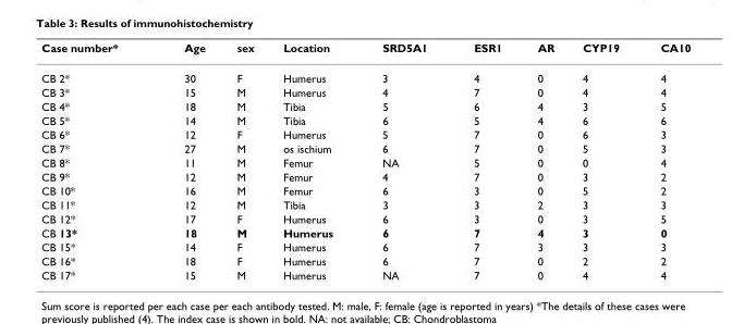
<table><thead><tr><td>Case number*</td><td>Age</td><td>sex</td><td>Location</td><td>SRD5A1</td><td>ESR1</td><td>AR</td><td>CYP19</td><td>CA10</td></tr></thead><tbody><tr><td>CB 2*</td><td>30</td><td>F</td><td>Humerus</td><td>3</td><td>4</td><td>0</td><td>4</td><td>4</td></tr><tr><td>CB 3*</td><td>15</td><td>M</td><td>Humerus</td><td>4</td><td>7</td><td>0</td><td>4</td><td>4</td></tr><tr><td>CB 4*</td><td>18</td><td>M</td><td>Tibia</td><td>5</td><td>6</td><td>4</td><td>3</td><td>5</td></tr><tr><td>CB 5*</td><td>14</td><td>M</td><td>Tibia</td><td>6</td><td>5</td><td>4</td><td>6</td><td>6</td></tr><tr><td>CB 6*</td><td>12</td><td>F</td><td>Humerus</td><td>5</td><td>7</td><td>0</td><td>6</td><td>3</td></tr><tr><td>CB 7*</td><td>27</td><td>M</td><td>os ischium</td><td>6</td><td>7</td><td>0</td><td>5</td><td>3</td></tr><tr><td>CB 8*</td><td>11</td><td>M</td><td>Femur</td><td>NA</td><td>5</td><td>0</td><td>0</td><td>4</td></tr><tr><td>CB 9*</td><td>12</td><td>M</td><td>Femur</td><td>4</td><td>7</td><td>0</td><td>3</td><td>2</td></tr><tr><td>CB 10*</td><td>16</td><td>M</td><td>Femur</td><td>6</td><td>3</td><td>0</td><td>5</td><td>2</td></tr><tr><td>CB 11*</td><td>12</td><td>M</td><td>Tibia</td><td>3</td><td>3</td><td>2</td><td>3</td><td>3</td></tr><tr><td>CB 12*</td><td>17</td><td>F</td><td>Humerus</td><td>6</td><td>3</td><td>0</td><td>3</td><td>5</td></tr><tr><td>CB 13*</td><td>18</td><td>M</td><td>Humerus</td><td>6</td><td>7</td><td>4</td><td>3</td><td>0</td></tr><tr><td>CB 15*</td><td>14</td><td>F</td><td>Humerus</td><td>6</td><td>7</td><td>3</td><td>3</td><td>3</td></tr><tr><td>CB 16*</td><td>18</td><td>F</td><td>Humerus</td><td>6</td><td>7</td><td>0</td><td>2</td><td>2</td></tr><tr><td>CB 17*</td><td>15</td><td>M</td><td>Humerus</td><td>NA</td><td>7</td><td>0</td><td>4</td><td>4</td></tr></tbody></table>